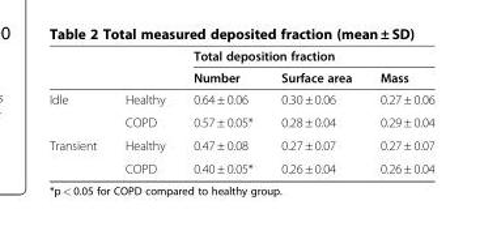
<table><thead><tr><td rowspan="2"></td><td rowspan="2"></td><td colspan="3">Total deposition fraction</td></tr><tr><td>Number</td><td>Surface area</td><td>Mass</td></tr></thead><tbody><tr><td rowspan="2">Idle</td><td>Healthy</td><td>0.64 ± 0.06</td><td>0.30 ± 0.06</td><td>0.27 ± 0.06</td></tr><tr><td>COPD</td><td>0.57 ± 0.05*</td><td>0.28 ± 0.04</td><td>0.29 ± 0.04</td></tr><tr><td rowspan="2">Transient</td><td>Healthy</td><td>0.47 ± 0.08</td><td>0.27 ± 0.07</td><td>0.27 ± 0.07</td></tr><tr><td>COPD</td><td>0.40 ± 0.05*</td><td>0.26 ± 0.04</td><td>0.26 ± 0.04</td></tr></tbody></table>